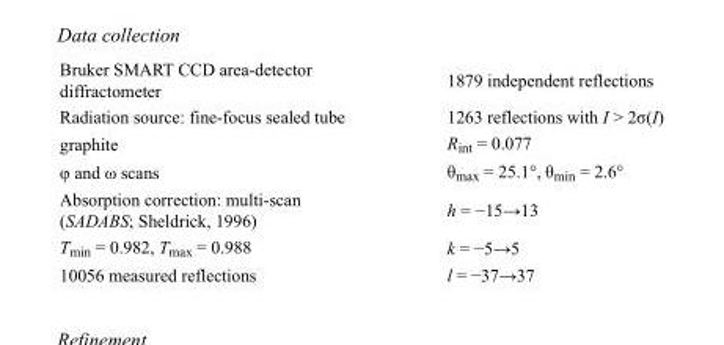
<table><tbody><tr><td>Bruker SMART CCD area-detector diffractometer</td><td>1879 independent reflections</td></tr><tr><td>Radiation source: fine-focus sealed tube</td><td>1263 reflections with I &gt; 2σ(I)</td></tr><tr><td>graphite</td><td>R<sub>int</sub> = 0.077</td></tr><tr><td>φ and ω scans</td><td>θ<sub>max</sub> = 25.1°, θ<sub>min</sub> = 2.6°</td></tr><tr><td>Absorption correction: multi-scan (SADABS; Sheldrick, 1996)</td><td>h = −15→13</td></tr><tr><td>T<sub>min</sub> = 0.982, T<sub>max</sub> = 0.988</td><td>k = −5→5</td></tr><tr><td>10056 measured reflections</td><td>l = −37→37</td></tr></tbody></table>